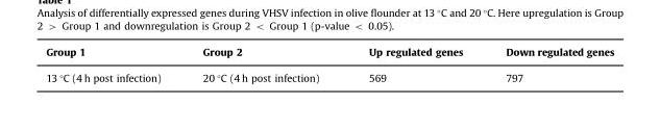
<table><thead><tr><td>Group 1</td><td>Group 2</td><td>Up regulated genes</td><td>Down regulated genes</td></tr></thead><tbody><tr><td>13 °C (4 h post infection)</td><td>20 °C (4 h post infection)</td><td>569</td><td>797</td></tr></tbody></table>